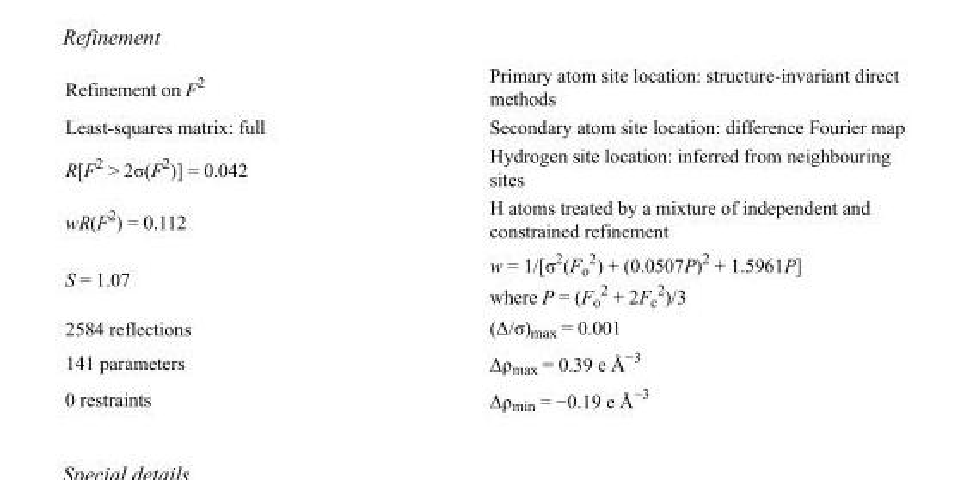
<table><tbody><tr><td>Refinement on F<sup>2</sup></td><td>Primary atom site location: structure-invariant direct methods</td></tr><tr><td>Least-squares matrix: full</td><td>Secondary atom site location: difference Fourier map</td></tr><tr><td>R[F<sup>2</sup> &gt; 2σ(F<sup>2</sup>)] = 0.042</td><td>Hydrogen site location: inferred from neighbouring sites</td></tr><tr><td>wR(F<sup>2</sup>) = 0.112</td><td>H atoms treated by a mixture of independent and constrained refinement</td></tr><tr><td>S = 1.07</td><td>w = 1/[σ<sup>2</sup>(F<sub>o</sub> <sup>2</sup>) + (0.0507P)<sup>2</sup> + 1.5961P] where P = (F<sub>o</sub> <sup>2</sup> + 2F<sub>c</sub> <sup>2</sup>)/3</td></tr><tr><td>2584 reflections</td><td>(Δ/σ)<sub>max</sub> = 0.001</td></tr><tr><td>141 parameters</td><td>Δρ<sub>max</sub> = 0.39 e Å<sup>−3</sup></td></tr><tr><td>0 restraints</td><td>Δρ<sub>min</sub> = −0.19 e Å<sup>−3</sup></td></tr></tbody></table>